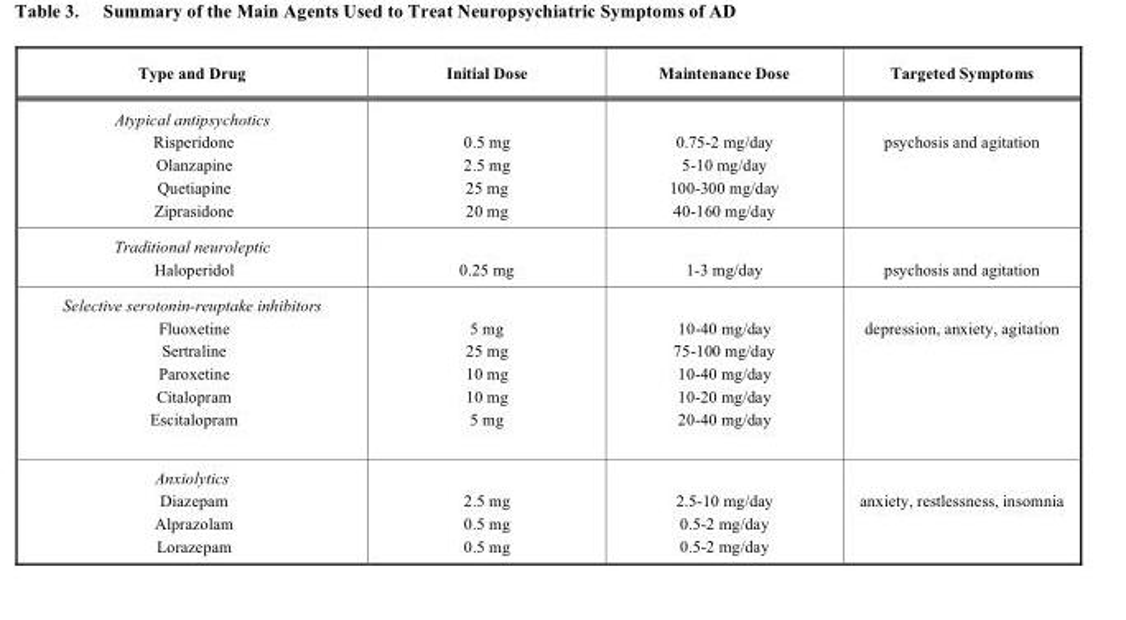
<table><thead><tr><td>Type and Drug</td><td>Initial Dose</td><td>Maintenance Dose</td><td>Targeted Symptoms</td></tr></thead><tbody><tr><td>Atypical antipsychotics Risperidone Olanzapine Quetiapine Ziprasidone</td><td>0.5 mg 2.5 mg 25 mg 20 mg</td><td>0.75-2 mg/day 5-10 mg/day 100-300 mg/day 40-160 mg/day</td><td>psychosis and agitation</td></tr><tr><td>Traditional neuroleptic Haloperidol</td><td>0.25 mg</td><td>1-3 mg/day</td><td>psychosis and agitation</td></tr><tr><td>Selective serotonin-reuptake inhibitors Fluoxetine Sertraline Paroxetine Citalopram Escitalopram</td><td>5 mg 25 mg 10 mg 10 mg 5 mg</td><td>10-40 mg/day 75-100 mg/day 10-40 mg/day 10-20 mg/day 20-40 mg/day</td><td>depression, anxiety, agitation</td></tr><tr><td>Anxiolytics Diazepam Alprazolam Lorazepam</td><td>2.5 mg 0.5 mg 0.5 mg</td><td>2.5-10 mg/day 0.5-2 mg/day 0.5-2 mg/day</td><td>anxiety, restlessness, insomnia</td></tr></tbody></table>